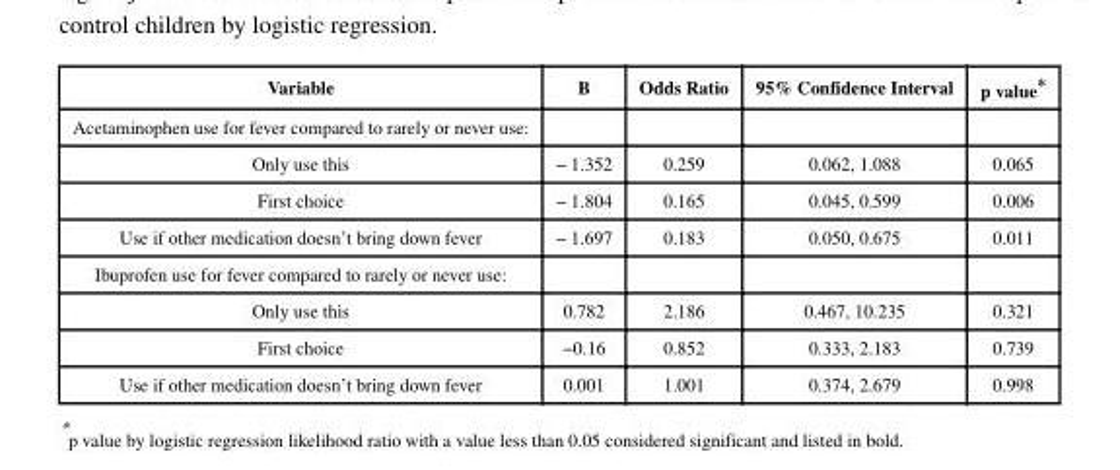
<table><thead><tr><td>Variable</td><td>B</td><td>Odds Ratio</td><td>95% Confidence Interval</td><td>p value*</td></tr></thead><tbody><tr><td colspan="5">Acetaminophen use for fever compared to rarely or never use:</td></tr><tr><td>Only use this</td><td>− 1.352</td><td>0.259</td><td>0.062, 1.088</td><td>0.065</td></tr><tr><td>First choice</td><td>− 1.804</td><td>0.165</td><td>0.045, 0.599</td><td>0.006</td></tr><tr><td>Use if other medication doesn’t bring down fever</td><td>− 1.697</td><td>0.183</td><td>0.050, 0.675</td><td>0.011</td></tr><tr><td colspan="5">Ibuprofen use for fever compared to rarely or never use:</td></tr><tr><td>Only use this</td><td>0.782</td><td>2.186</td><td>0.467, 10.235</td><td>0.321</td></tr><tr><td>First choice</td><td>−0.16</td><td>0.852</td><td>0.333, 2.183</td><td>0.739</td></tr><tr><td>Use if other medication doesn’t bring down fever</td><td>0.001</td><td>1.001</td><td>0.374, 2.679</td><td>0.998</td></tr></tbody></table>